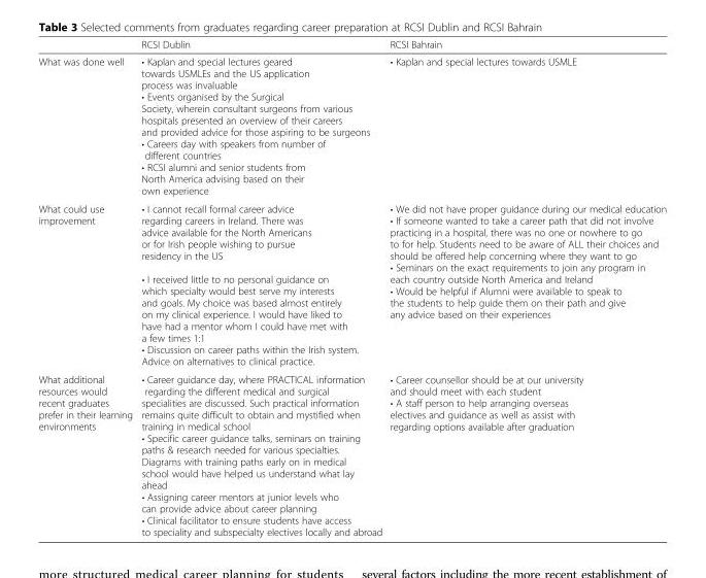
<table><thead><tr><td></td><td>RCSI Dublin</td><td>RCSI Bahrain</td></tr></thead><tbody><tr><td>What was done well</td><td>• Kaplan and special lectures geared towards USMLEs and the US application process was invaluable • Events organised by the Surgical Society, wherein consultant surgeons from various hospitals presented an overview of their careers and provided advice for those aspiring to be surgeons • Careers day with speakers from number of different countries • RCSI alumni and senior students from North America advising based on their own experience</td><td>• Kaplan and special lectures towards USMLE</td></tr><tr><td>What could use improvement</td><td>• I cannot recall formal career advice regarding careers in Ireland. There was advice available for the North Americans or for Irish people wishing to pursue residency in the US • I received little to no personal guidance on which specialty would best serve my interests and goals. My choice was based almost entirely on my clinical experience. I would have liked to have had a mentor whom I could have met with a few times 1:1 • Discussion on career paths within the Irish system. Advice on alternatives to clinical practice.</td><td>• We did not have proper guidance during our medical education • If someone wanted to take a career path that did not involve practicing in a hospital, there was no one or nowhere to go to for help. Students need to be aware of ALL their choices and should be offered help concerning where they want to go • Seminars on the exact requirements to join any program in each country outside North America and Ireland • Would be helpful if Alumni were available to speak to the students to help guide them on their path and give any advice based on their experiences</td></tr><tr><td>What additional resources would recent graduates prefer in their learning environments</td><td>• Career guidance day, where PRACTICAL information regarding the different medical and surgical specialities are discussed. Such practical information remains quite difficult to obtain and mystified when training in medical school • Specific career guidance talks, seminars on training paths &amp; research needed for various specialties. Diagrams with training paths early on in medical school would have helped us understand what lay ahead • Assigning career mentors at junior levels who can provide advice about career planning • Clinical facilitator to ensure students have access to speciality and subspecialty electives locally and abroad</td><td>• Career counsellor should be at our university and should meet with each student • A staff person to help arranging overseas electives and guidance as well as assist with regarding options available after graduation</td></tr></tbody></table>